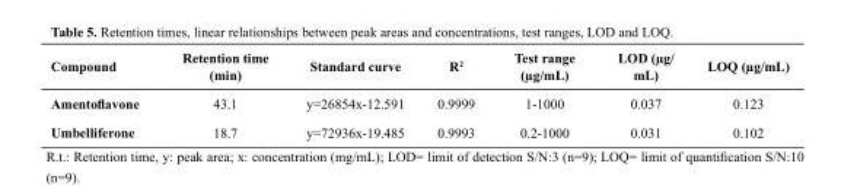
<table><thead><tr><td>Compound</td><td>Retention time (min)</td><td>Standard curve</td><td>R<sup>2</sup></td><td>Test range (µg/mL)</td><td>LOD (µg/ mL)</td><td>LOQ (µg/mL)</td></tr></thead><tbody><tr><td>Amentoflavone</td><td>43.1</td><td>y=26854x-12.591</td><td>0.9999</td><td>1-1000</td><td>0.037</td><td>0.123</td></tr><tr><td>Umbelliferone</td><td>18.7</td><td>y=72936x-19.485</td><td>0.9993</td><td>0.2-1000</td><td>0.031</td><td>0.102</td></tr></tbody></table>